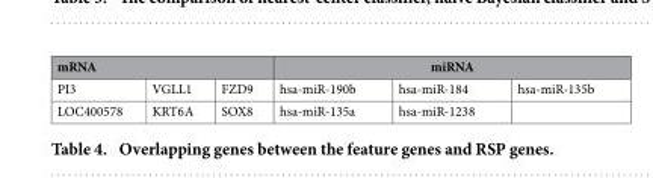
<table><thead><tr><td colspan="3">mRNA</td><td colspan="3">miRNA</td></tr><tr><td>PI3</td><td>VGLL1</td><td>FZD9</td><td>hsa-miR-190b</td><td>hsa-miR-184</td><td>hsa-miR-135b</td></tr></thead><tbody><tr><td>LOC400578</td><td>KRT6A</td><td>SOX8</td><td>hsa-miR-135a</td><td>hsa-miR-1238</td><td></td></tr></tbody></table>